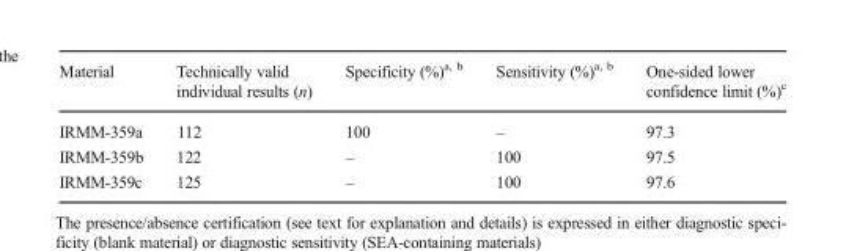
<table><thead><tr><td>Material</td><td>Technically valid individual results (n)</td><td>Specificity (%)<sup>a, b</sup></td><td>Sensitivity (%)<sup>a, b</sup></td><td>One-sided lower confidence limit (%)<sup>c</sup></td></tr></thead><tbody><tr><td>IRMM-359a</td><td>112</td><td>100</td><td>–</td><td>97.3</td></tr><tr><td>IRMM-359b</td><td>122</td><td>–</td><td>100</td><td>97.5</td></tr><tr><td>IRMM-359c</td><td>125</td><td>–</td><td>100</td><td>97.6</td></tr></tbody></table>